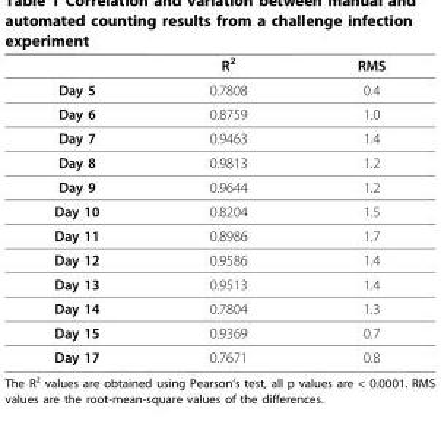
<table><thead><tr><td></td><td>R<sup>2</sup></td><td>RMS</td></tr></thead><tbody><tr><td>Day 5</td><td>0.7808</td><td>0.4</td></tr><tr><td>Day 6</td><td>0.8759</td><td>1.0</td></tr><tr><td>Day 7</td><td>0.9463</td><td>1.4</td></tr><tr><td>Day 8</td><td>0.9813</td><td>1.2</td></tr><tr><td>Day 9</td><td>0.9644</td><td>1.2</td></tr><tr><td>Day 10</td><td>0.8204</td><td>1.5</td></tr><tr><td>Day 11</td><td>0.8986</td><td>1.7</td></tr><tr><td>Day 12</td><td>0.9586</td><td>1.4</td></tr><tr><td>Day 13</td><td>0.9513</td><td>1.4</td></tr><tr><td>Day 14</td><td>0.7804</td><td>1.3</td></tr><tr><td>Day 15</td><td>0.9369</td><td>0.7</td></tr><tr><td>Day 17</td><td>0.7671</td><td>0.8</td></tr></tbody></table>